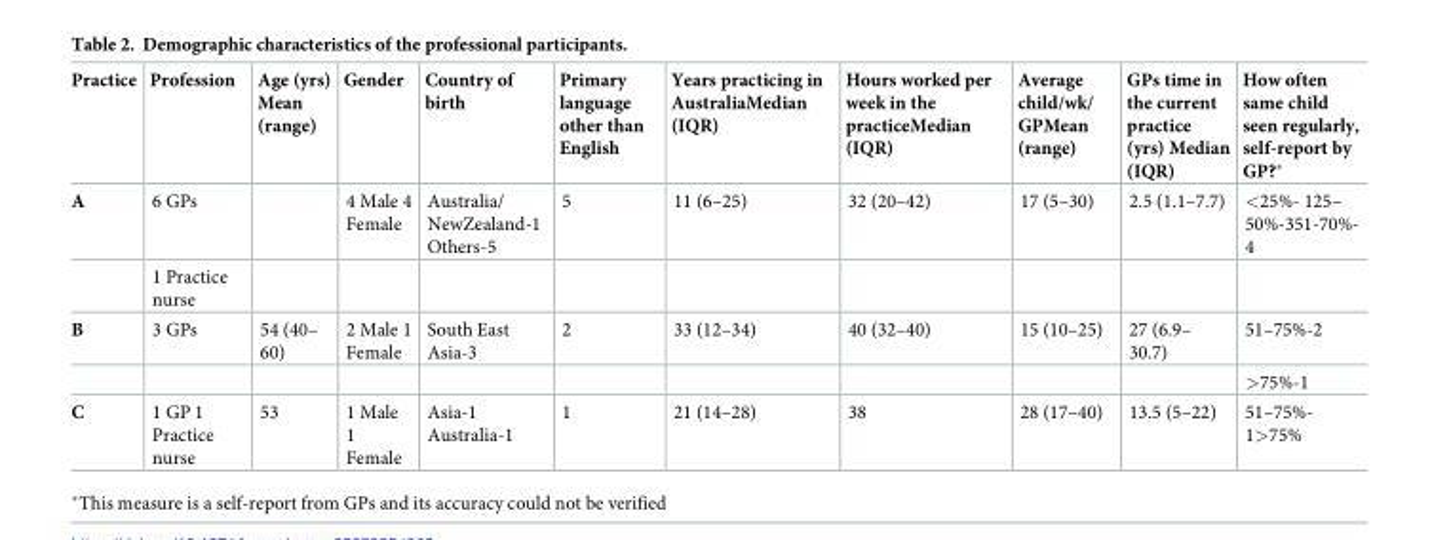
<table><thead><tr><td>Practice</td><td>Profession</td><td>Age (yrs) Mean (range)</td><td>Gender</td><td>Country of birth</td><td>Primary language other than English</td><td>Years practicing in AustraliaMedian (IQR)</td><td>Hours worked per week in the practiceMedian (IQR)</td><td>Average child/wk/ GPMean (range)</td><td>GPs time in the current practice (yrs) Median (IQR)</td><td>How often same child seen regularly, self-report by GP?*</td></tr></thead><tbody><tr><td rowspan="2">A</td><td>6 GPs</td><td></td><td>4 Male 4 Female</td><td>Australia/ NewZealand-1 Others-5</td><td>5</td><td>11 (6–25)</td><td>32 (20–42)</td><td>17 (5–30)</td><td>2.5 (1.1–7.7)</td><td>&lt;25%- 125– 50%-351-70%- 4</td></tr><tr><td>1 Practice nurse</td><td></td><td></td><td></td><td></td><td></td><td></td><td></td><td></td><td></td></tr><tr><td rowspan="2">B</td><td>3 GPs</td><td>54 (40– 60)</td><td>2 Male 1 Female</td><td>South East Asia-3</td><td>2</td><td>33 (12–34)</td><td>40 (32–40)</td><td>15 (10–25)</td><td>27 (6.9– 30.7)</td><td>51–75%-2</td></tr><tr><td></td><td></td><td></td><td></td><td></td><td></td><td></td><td></td><td></td><td>&gt;75%-1</td></tr><tr><td>C</td><td>1 GP 1 Practice nurse</td><td>53</td><td>1 Male 1 Female</td><td>Asia-1 Australia-1</td><td>1</td><td>21 (14–28)</td><td>38</td><td>28 (17–40)</td><td>13.5 (5–22)</td><td>51–75%- 1&gt;75%</td></tr></tbody></table>